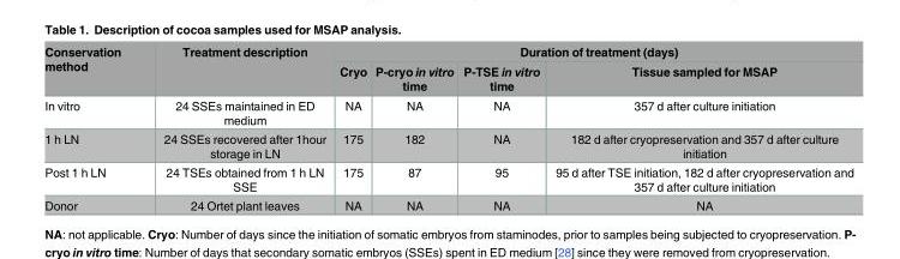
<table><thead><tr><td rowspan="2">Conservation method</td><td rowspan="2">Treatment description</td><td colspan="4">Duration of treatment (days)</td></tr><tr><td>Cryo</td><td>P-cryo in vitro time</td><td>P-TSE in vitro time</td><td>Tissue sampled for MSAP</td></tr></thead><tbody><tr><td>In vitro</td><td>24 SSEs maintained in ED medium</td><td>NA</td><td>NA</td><td>NA</td><td>357 d after culture initiation</td></tr><tr><td>1 h LN</td><td>24 SSEs recovered after 1hour storage in LN</td><td>175</td><td>182</td><td>NA</td><td>182 d after cryopreservation and 357 d after culture initiation</td></tr><tr><td>Post 1 h LN</td><td>24 TSEs obtained from 1 h LN SSE</td><td>175</td><td>87</td><td>95</td><td>95 d after TSE initiation, 182 d after cryopreservation and 357 d after culture initiation</td></tr><tr><td>Donor</td><td>24 Ortet plant leaves</td><td>NA</td><td>NA</td><td>NA</td><td>NA</td></tr></tbody></table>